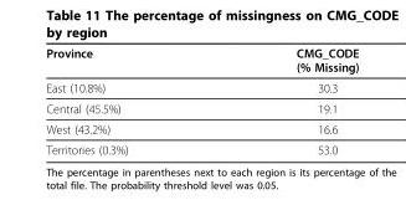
<table><thead><tr><td>Province</td><td>CMG_CODE (% Missing)</td></tr></thead><tbody><tr><td>East (10.8%)</td><td>30.3</td></tr><tr><td>Central (45.5%)</td><td>19.1</td></tr><tr><td>West (43.2%)</td><td>16.6</td></tr><tr><td>Territories (0.3%)</td><td>53.0</td></tr></tbody></table>